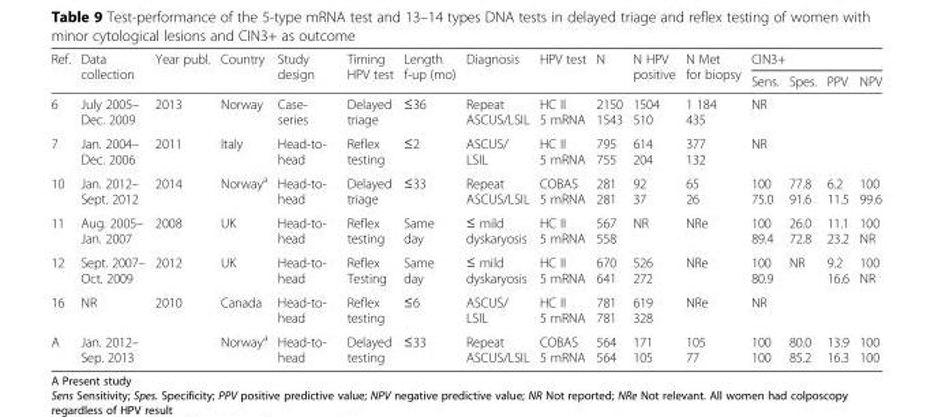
<table><thead><tr><td rowspan="2">Ref.</td><td rowspan="2">Data collection</td><td rowspan="2">Year publ.</td><td rowspan="2">Country</td><td rowspan="2">Study design</td><td rowspan="2">Timing HPV test</td><td rowspan="2">Length f-up (mo)</td><td rowspan="2">Diagnosis</td><td rowspan="2">HPV test</td><td rowspan="2">N</td><td rowspan="2">N HPV positive</td><td rowspan="2">N Met for biopsy</td><td colspan="4">CIN3+</td></tr><tr><td>Sens.</td><td>Spes.</td><td>PPV</td><td>NPV</td></tr></thead><tbody><tr><td>6</td><td>July 2005– Dec. 2009</td><td>2013</td><td>Norway</td><td>Case- series</td><td>Delayed triage</td><td>≤36</td><td>Repeat ASCUS/LSIL</td><td>HC II 5 mRNA</td><td>2150 1543</td><td>1504 510</td><td>1 184 435</td><td colspan="4">NR</td></tr><tr><td>7</td><td>Jan. 2004– Dec. 2006</td><td>2011</td><td>Italy</td><td>Head-to- head</td><td>Reflex testing</td><td>≤2</td><td>ASCUS/ LSIL</td><td>HC II 5 mRNA</td><td>795 755</td><td>614 204</td><td>377 132</td><td colspan="4">NR</td></tr><tr><td>10</td><td>Jan. 2012– Sept. 2012</td><td>2014</td><td>Norway<sup>a</sup></td><td>Head-to- head</td><td>Delayed triage</td><td>≤33</td><td>Repeat ASCUS/LSIL</td><td>COBAS 5 mRNA</td><td>281 281</td><td>92 37</td><td>65 26</td><td>100 75.0</td><td>77.8 91.6</td><td>6.2 11.5</td><td>100 99.6</td></tr><tr><td>11</td><td>Aug. 2005– Jan. 2007</td><td>2008</td><td>UK</td><td>Head-to- head</td><td>Reflex testing</td><td>Same day</td><td>≤ mild dyskaryosis</td><td>HC II 5 mRNA</td><td>567 558</td><td>NR</td><td>NRe</td><td>100 89.4</td><td>26.0 72.8</td><td>11.1 23.2</td><td>100 NR</td></tr><tr><td>12</td><td>Sept. 2007– Oct. 2009</td><td>2012</td><td>UK</td><td>Head-to- head</td><td>Reflex Testing</td><td>Same day</td><td>≤ mild dyskaryosis</td><td>HC II 5 mRNA</td><td>670 641</td><td>526 272</td><td>NRe</td><td>100 80.9</td><td>NR</td><td>9.2 16.6</td><td>100 NR</td></tr><tr><td>16</td><td>NR</td><td>2010</td><td>Canada</td><td>Head-to- head</td><td>Reflex testing</td><td>≤6</td><td>ASCUS/ LSIL</td><td>HC II 5 mRNA</td><td>781 781</td><td>619 328</td><td>NRe</td><td colspan="4">NR</td></tr><tr><td>A</td><td>Jan. 2012– Sep. 2013</td><td></td><td>Norway<sup>a</sup></td><td>Head-to- head</td><td>Delayed testing</td><td>≤33</td><td>Repeat ASCUS/LSIL</td><td>COBAS 5 mRNA</td><td>564 564</td><td>171 105</td><td>105 77</td><td>100 100</td><td>80.0 85.2</td><td>13.9 16.3</td><td>100 100</td></tr></tbody></table>